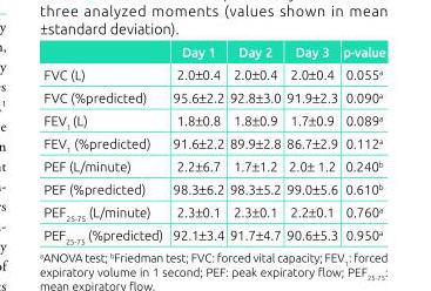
<table><thead><tr><td></td><td>Day 1</td><td>Day 2</td><td>Day 3</td><td>p-value</td></tr></thead><tbody><tr><td>FVC (L)</td><td>2.0±0.4</td><td>2.0±0.4</td><td>2.0±0.4</td><td>0.055<sup>a</sup></td></tr><tr><td>FVC (%predicted)</td><td>95.6±2.2</td><td>92.8±3.0</td><td>91.9±2.3</td><td>0.090<sup>a</sup></td></tr><tr><td>FEV<sub>1</sub> (L)</td><td>1.8±0.8</td><td>1.8±0.9</td><td>1.7±0.9</td><td>0.089<sup>a</sup></td></tr><tr><td>FEV<sub>1</sub> (%predicted)</td><td>91.6±2.2</td><td>89.9±2.8</td><td>86.7±2.9</td><td>0.112<sup>a</sup></td></tr><tr><td>PEF (L/minute)</td><td>2.2±6.7</td><td>1.7±1.2</td><td>2.0± 1.2</td><td>0.240<sup>b</sup></td></tr><tr><td>PEF (%predicted)</td><td>98.3±6.2</td><td>98.3±5.2</td><td>99.0±5.6</td><td>0.610<sup>b</sup></td></tr><tr><td>PEF<sub>25-75</sub> (L/minute)</td><td>2.3±0.1</td><td>2.3±0.1</td><td>2.2±0.1</td><td>0.760<sup>a</sup></td></tr><tr><td>PEF<sub>25-75</sub> (%predicted)</td><td>92.1±3.4</td><td>91.7±4.7</td><td>90.6±5.3</td><td>0.950<sup>a</sup></td></tr></tbody></table>